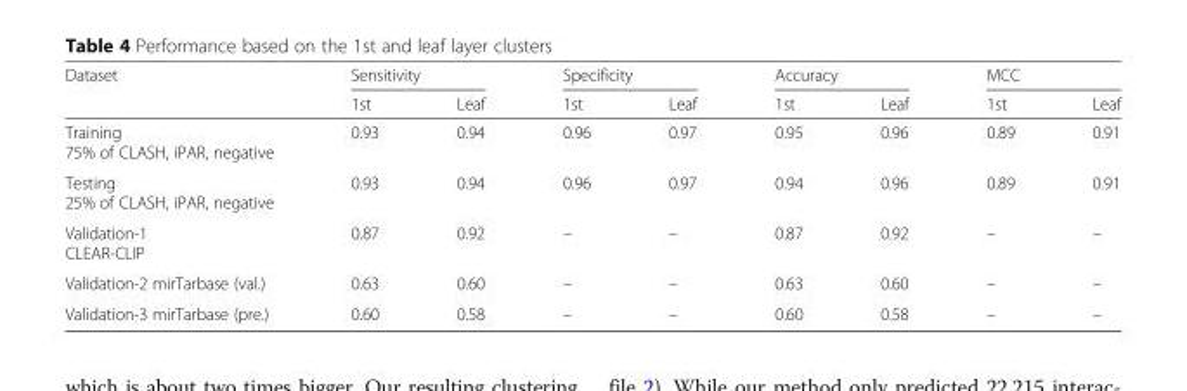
<table><thead><tr><td rowspan="2">Dataset</td><td colspan="2">Sensitivity</td><td colspan="2">Specificity</td><td colspan="2">Accuracy</td><td colspan="2">MCC</td></tr><tr><td>1st</td><td>Leaf</td><td>1st</td><td>Leaf</td><td>1st</td><td>Leaf</td><td>1st</td><td>Leaf</td></tr></thead><tbody><tr><td>Training 75% of CLASH, iPAR, negative</td><td>0.93</td><td>0.94</td><td>0.96</td><td>0.97</td><td>0.95</td><td>0.96</td><td>0.89</td><td>0.91</td></tr><tr><td>Testing 25% of CLASH, iPAR, negative</td><td>0.93</td><td>0.94</td><td>0.96</td><td>0.97</td><td>0.94</td><td>0.96</td><td>0.89</td><td>0.91</td></tr><tr><td>Validation-1 CLEAR-CLIP</td><td>0.87</td><td>0.92</td><td>–</td><td>–</td><td>0.87</td><td>0.92</td><td>–</td><td>–</td></tr><tr><td>Validation-2 mirTarbase (val.)</td><td>0.63</td><td>0.60</td><td>–</td><td>–</td><td>0.63</td><td>0.60</td><td>–</td><td>–</td></tr><tr><td>Validation-3 mirTarbase (pre.)</td><td>0.60</td><td>0.58</td><td>–</td><td>–</td><td>0.60</td><td>0.58</td><td>–</td><td>–</td></tr></tbody></table>